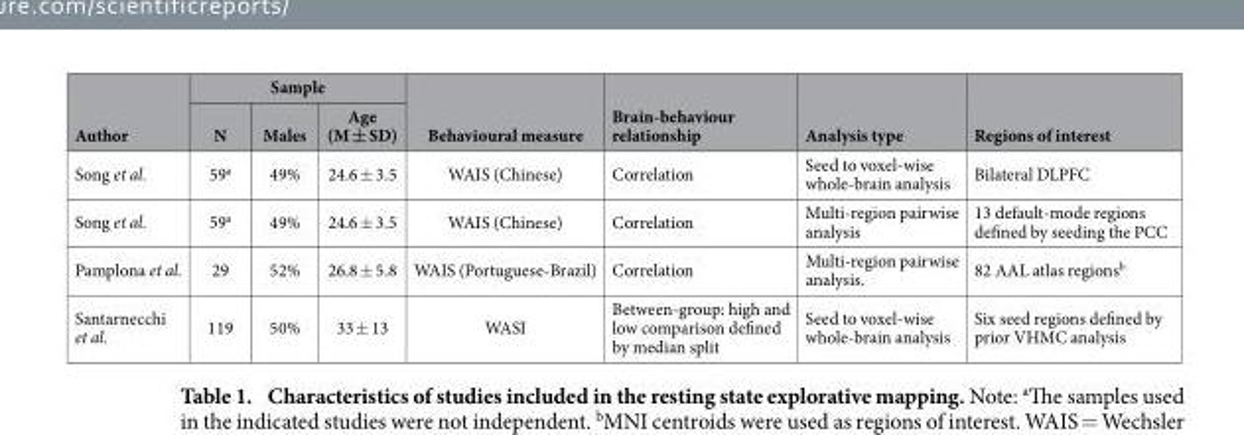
<table><thead><tr><td rowspan="2">Author</td><td colspan="3">Sample</td><td rowspan="2">Behavioural measure</td><td rowspan="2">Brain-behaviour relationship</td><td rowspan="2">Analysis type</td><td rowspan="2">Regions of interest</td></tr><tr><td>N</td><td>Males</td><td>Age (M ± SD)</td></tr></thead><tbody><tr><td>Song et al.</td><td>59<sup>a</sup></td><td>49%</td><td>24.6 ± 3.5</td><td>WAIS (Chinese)</td><td>Correlation</td><td>Seed to voxel-wise whole-brain analysis</td><td>Bilateral DLPFC</td></tr><tr><td>Song et al.</td><td>59<sup>a</sup></td><td>49%</td><td>24.6 ± 3.5</td><td>WAIS (Chinese)</td><td>Correlation</td><td>Multi-region pairwise analysis</td><td>13 default-mode regions defined by seeding the PCC</td></tr><tr><td>Pamplona et al.</td><td>29</td><td>52%</td><td>26.8 ± 5.8</td><td>WAIS (Portuguese-Brazil)</td><td>Correlation</td><td>Multi-region pairwise analysis.</td><td>82 AAL atlas regions<sup>b</sup></td></tr><tr><td>Santarnecchi et al.</td><td>119</td><td>50%</td><td>33 ± 13</td><td>WASI</td><td>Between-group: high and low comparison defined by median split</td><td>Seed to voxel-wise whole-brain analysis</td><td>Six seed regions defined by prior VHMC analysis</td></tr></tbody></table>